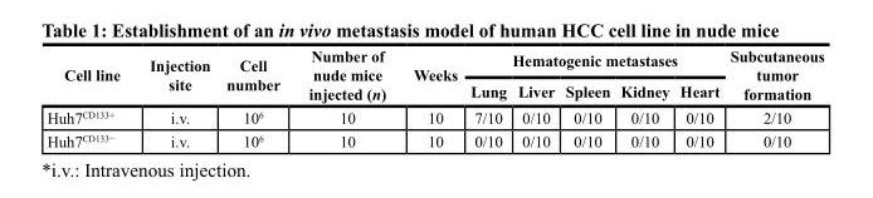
<table><thead><tr><td rowspan="2">cell line</td><td rowspan="2">Injection site</td><td rowspan="2">cell number</td><td rowspan="2">number of nude mice injected (n)</td><td rowspan="2">Weeks</td><td colspan="5">Hematogenic metastases</td><td rowspan="2">subcutaneous tumor formation</td></tr><tr><td>lung</td><td>liver</td><td>spleen</td><td>Kidney</td><td>Heart</td></tr></thead><tbody><tr><td>Huh7<sup>CD133+</sup></td><td>i.v.</td><td>10<sup>6</sup></td><td>10</td><td>10</td><td>7/10</td><td>0/10</td><td>0/10</td><td>0/10</td><td>0/10</td><td>2/10</td></tr><tr><td>Huh7<sup>CD133−</sup></td><td>i.v.</td><td>10<sup>6</sup></td><td>10</td><td>10</td><td>0/10</td><td>0/10</td><td>0/10</td><td>0/10</td><td>0/10</td><td>0/10</td></tr></tbody></table>